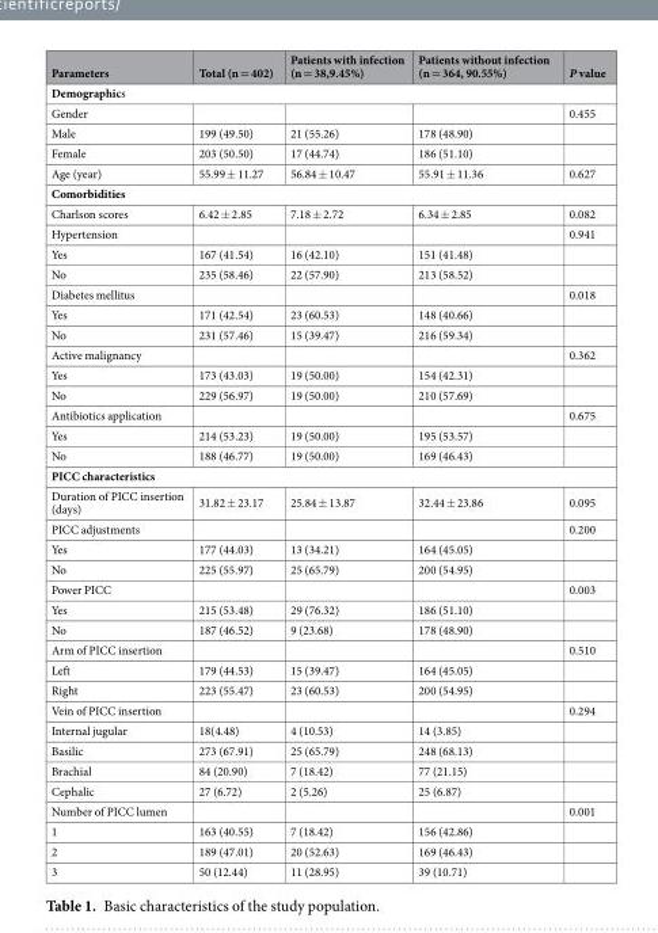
<table><thead><tr><td>Parameters</td><td>Total (n = 402)</td><td>Patients with infection (n = 38,9.45%)</td><td>Patients without infection (n = 364, 90.55%)</td><td>P value</td></tr></thead><tbody><tr><td colspan="5">Demographics</td></tr><tr><td>Gender</td><td></td><td></td><td></td><td>0.455</td></tr><tr><td>Male</td><td>199 (49.50)</td><td>21 (55.26)</td><td>178 (48.90)</td><td></td></tr><tr><td>Female</td><td>203 (50.50)</td><td>17 (44.74)</td><td>186 (51.10)</td><td></td></tr><tr><td>Age (year)</td><td>55.99 ± 11.27</td><td>56.84 ± 10.47</td><td>55.91 ± 11.36</td><td>0.627</td></tr><tr><td colspan="5">Comorbidities</td></tr><tr><td>Charlson scores</td><td>6.42 ± 2.85</td><td>7.18 ± 2.72</td><td>6.34 ± 2.85</td><td>0.082</td></tr><tr><td>Hypertension</td><td></td><td></td><td></td><td>0.941</td></tr><tr><td>Yes</td><td>167 (41.54)</td><td>16 (42.10)</td><td>151 (41.48)</td><td></td></tr><tr><td>No</td><td>235 (58.46)</td><td>22 (57.90)</td><td>213 (58.52)</td><td></td></tr><tr><td>Diabetes mellitus</td><td></td><td></td><td></td><td>0.018</td></tr><tr><td>Yes</td><td>171 (42.54)</td><td>23 (60.53)</td><td>148 (40.66)</td><td></td></tr><tr><td>No</td><td>231 (57.46)</td><td>15 (39.47)</td><td>216 (59.34)</td><td></td></tr><tr><td>Active malignancy</td><td></td><td></td><td></td><td>0.362</td></tr><tr><td>Yes</td><td>173 (43.03)</td><td>19 (50.00)</td><td>154 (42.31)</td><td></td></tr><tr><td>No</td><td>229 (56.97)</td><td>19 (50.00)</td><td>210 (57.69)</td><td></td></tr><tr><td>Antibiotics application</td><td></td><td></td><td></td><td>0.675</td></tr><tr><td>Yes</td><td>214 (53.23)</td><td>19 (50.00)</td><td>195 (53.57)</td><td></td></tr><tr><td>No</td><td>188 (46.77)</td><td>19 (50.00)</td><td>169 (46.43)</td><td></td></tr><tr><td colspan="5">PICC characteristics</td></tr><tr><td>Duration of PICC insertion (days)</td><td>31.82 ± 23.17</td><td>25.84 ± 13.87</td><td>32.44 ± 23.86</td><td>0.095</td></tr><tr><td>PICC adjustments</td><td></td><td></td><td></td><td>0.200</td></tr><tr><td>Yes</td><td>177 (44.03)</td><td>13 (34.21)</td><td>164 (45.05)</td><td></td></tr><tr><td>No</td><td>225 (55.97)</td><td>25 (65.79)</td><td>200 (54.95)</td><td></td></tr><tr><td>Power PICC</td><td></td><td></td><td></td><td>0.003</td></tr><tr><td>Yes</td><td>215 (53.48)</td><td>29 (76.32)</td><td>186 (51.10)</td><td></td></tr><tr><td>No</td><td>187 (46.52)</td><td>9 (23.68)</td><td>178 (48.90)</td><td></td></tr><tr><td>Arm of PICC insertion</td><td></td><td></td><td></td><td>0.510</td></tr><tr><td>Left</td><td>179 (44.53)</td><td>15 (39.47)</td><td>164 (45.05)</td><td></td></tr><tr><td>Right</td><td>223 (55.47)</td><td>23 (60.53)</td><td>200 (54.95)</td><td></td></tr><tr><td>Vein of PICC insertion</td><td></td><td></td><td></td><td>0.294</td></tr><tr><td>Internal jugular</td><td>18(4.48)</td><td>4 (10.53)</td><td>14 (3.85)</td><td></td></tr><tr><td>Basilic</td><td>273 (67.91)</td><td>25 (65.79)</td><td>248 (68.13)</td><td></td></tr><tr><td>Brachial</td><td>84 (20.90)</td><td>7 (18.42)</td><td>77 (21.15)</td><td></td></tr><tr><td>Cephalic</td><td>27 (6.72)</td><td>2 (5.26)</td><td>25 (6.87)</td><td></td></tr><tr><td>Number of PICC lumen</td><td></td><td></td><td></td><td>0.001</td></tr><tr><td>1</td><td>163 (40.55)</td><td>7 (18.42)</td><td>156 (42.86)</td><td></td></tr><tr><td>2</td><td>189 (47.01)</td><td>20 (52.63)</td><td>169 (46.43)</td><td></td></tr><tr><td>3</td><td>50 (12.44)</td><td>11 (28.95)</td><td>39 (10.71)</td><td></td></tr></tbody></table>